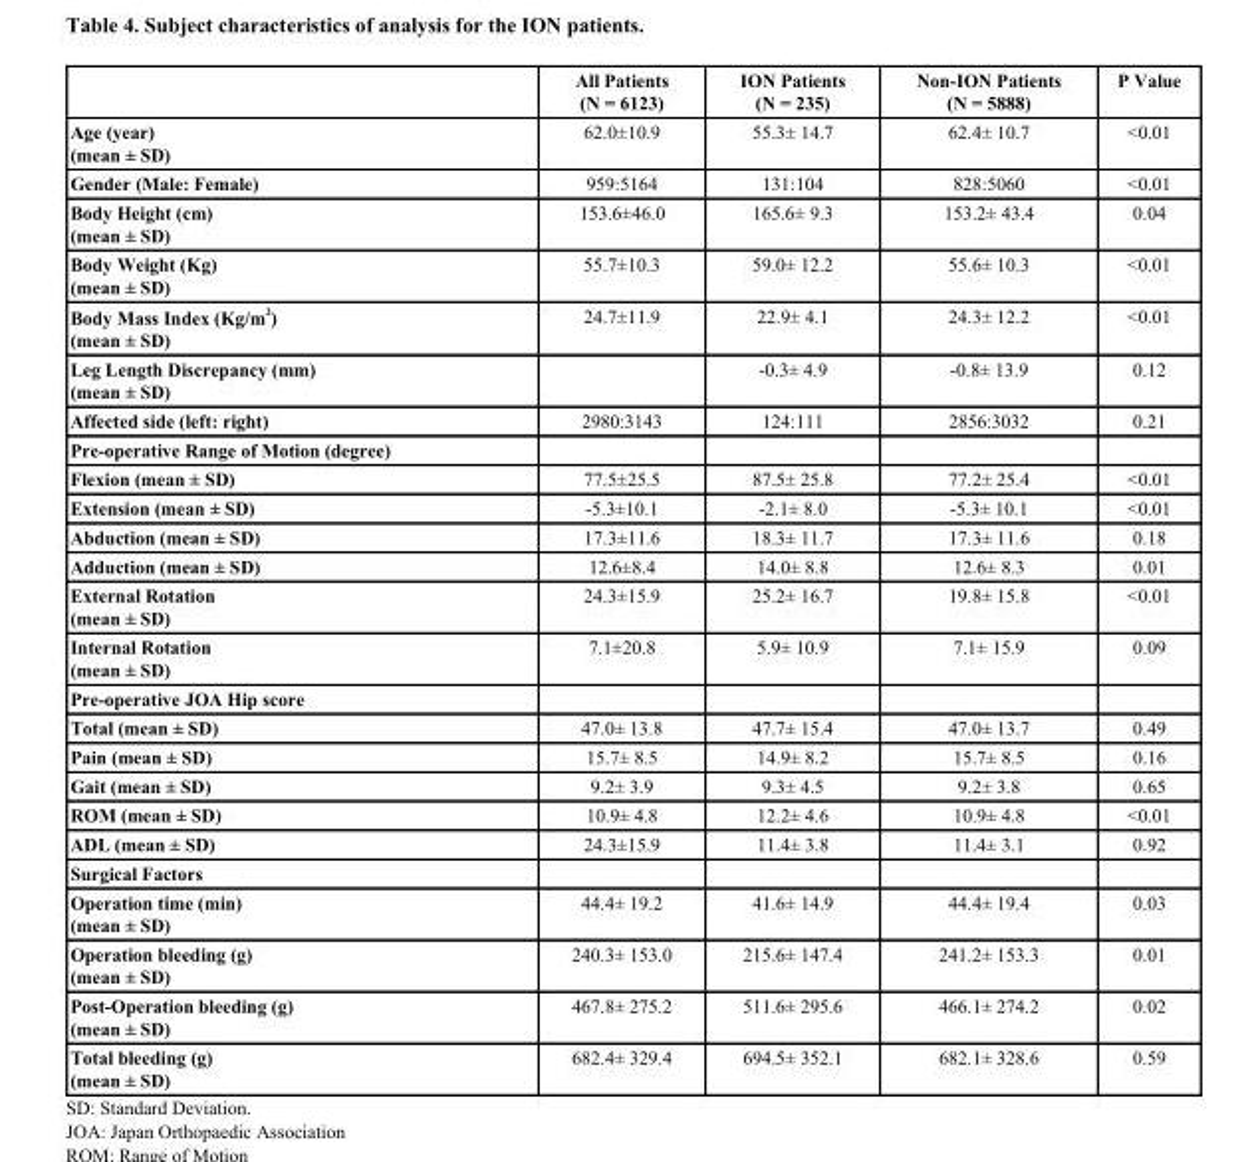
<table><thead><tr><td></td><td>All Patients (N = 6123)</td><td>ION Patients (N = 235)</td><td>Non-ION Patients (N = 5888)</td><td>P Value</td></tr></thead><tbody><tr><td>Age (year) (mean ± SD)</td><td>62.0±10.9</td><td>55.3± 14.7</td><td>62.4± 10.7</td><td>&lt;0.01</td></tr><tr><td>Gender (Male: Female)</td><td>959:5164</td><td>131:104</td><td>828:5060</td><td>&lt;0.01</td></tr><tr><td>Body Height (cm) (mean ± SD)</td><td>153.6±46.0</td><td>165.6± 9.3</td><td>153.2± 43.4</td><td>0.04</td></tr><tr><td>Body Weight (Kg) (mean ± SD)</td><td>55.7±10.3</td><td>59.0± 12.2</td><td>55.6± 10.3</td><td>&lt;0.01</td></tr><tr><td>Body Mass Index (Kg/m <sup>2</sup>) (mean ± SD)</td><td>24.7±11.9</td><td>22.9± 4.1</td><td>24.3± 12.2</td><td>&lt;0.01</td></tr><tr><td>Leg Length Discrepancy (mm) (mean ± SD)</td><td></td><td>-0.3± 4.9</td><td>-0.8± 13.9</td><td>0.12</td></tr><tr><td>Affected side (left: right)</td><td>2980:3143</td><td>124:111</td><td>2856:3032</td><td>0.21</td></tr><tr><td colspan="5">Pre-operative Range of Motion (degree)</td></tr><tr><td>Flexion (mean ± SD)</td><td>77.5±25.5</td><td>87.5± 25.8</td><td>77.2± 25.4</td><td>&lt;0.01</td></tr><tr><td>Extension (mean ± SD)</td><td>-5.3±10.1</td><td>-2.1± 8.0</td><td>-5.3± 10.1</td><td>&lt;0.01</td></tr><tr><td>Abduction (mean ± SD)</td><td>17.3±11.6</td><td>18.3± 11.7</td><td>17.3± 11.6</td><td>0.18</td></tr><tr><td>Adduction (mean ± SD)</td><td>12.6±8.4</td><td>14.0± 8.8</td><td>12.6± 8.3</td><td>0.01</td></tr><tr><td>External Rotation (mean ± SD)</td><td>24.3±15.9</td><td>25.2± 16.7</td><td>19.8± 15.8</td><td>&lt;0.01</td></tr><tr><td>Internal Rotation (mean ± SD)</td><td>7.1±20.8</td><td>5.9± 10.9</td><td>7.1± 15.9</td><td>0.09</td></tr><tr><td colspan="5">Pre-operative JOA Hip score</td></tr><tr><td>Total (mean ± SD)</td><td>47.0± 13.8</td><td>47.7± 15.4</td><td>47.0± 13.7</td><td>0.49</td></tr><tr><td>Pain (mean ± SD)</td><td>15.7± 8.5</td><td>14.9± 8.2</td><td>15.7± 8.5</td><td>0.16</td></tr><tr><td>Gait (mean ± SD)</td><td>9.2± 3.9</td><td>9.3± 4.5</td><td>9.2± 3.8</td><td>0.65</td></tr><tr><td>ROM (mean ± SD)</td><td>10.9± 4.8</td><td>12.2± 4.6</td><td>10.9± 4.8</td><td>&lt;0.01</td></tr><tr><td>ADL (mean ± SD)</td><td>24.3±15.9</td><td>11.4± 3.8</td><td>11.4± 3.1</td><td>0.92</td></tr><tr><td colspan="5">Surgical Factors</td></tr><tr><td>Operation time (min) (mean ± SD)</td><td>44.4± 19.2</td><td>41.6± 14.9</td><td>44.4± 19.4</td><td>0.03</td></tr><tr><td>Operation bleeding (g) (mean ± SD)</td><td>240.3± 153.0</td><td>215.6± 147.4</td><td>241.2± 153.3</td><td>0.01</td></tr><tr><td>Post-Operation bleeding (g) (mean ± SD)</td><td>467.8± 275.2</td><td>511.6± 295.6</td><td>466.1± 274.2</td><td>0.02</td></tr><tr><td>Total bleeding (g) (mean ± SD)</td><td>682.4± 329.4</td><td>694.5± 352.1</td><td>682.1± 328.6</td><td>0.59</td></tr></tbody></table>